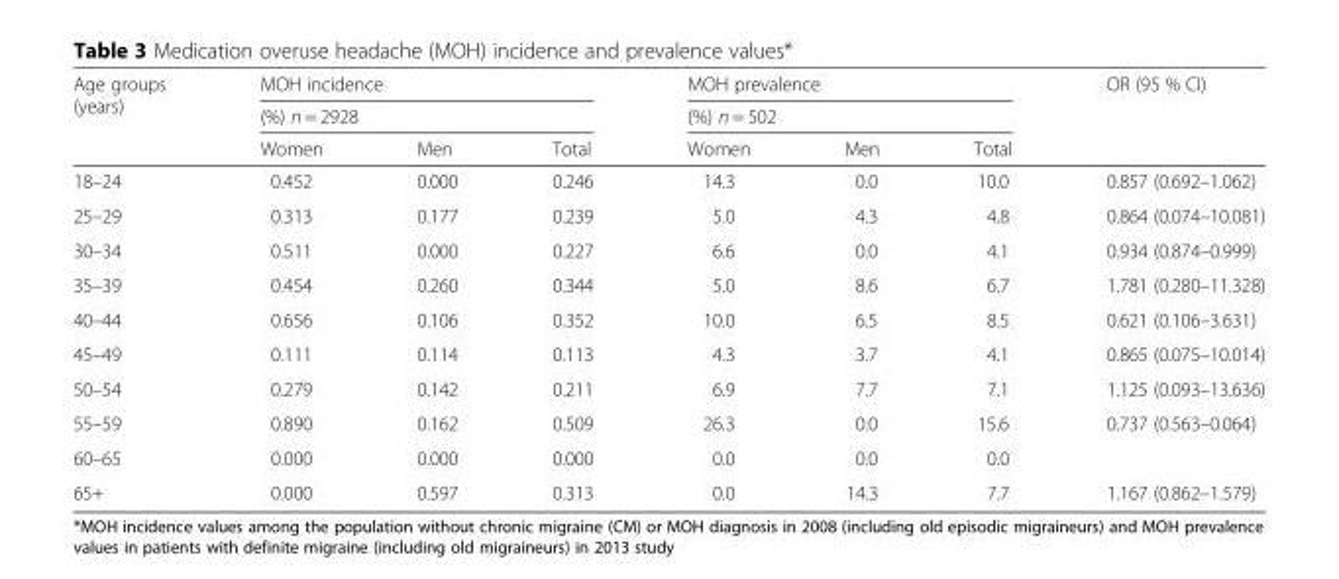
<table><thead><tr><td rowspan="3">Age groups (years)</td><td rowspan="2" colspan="3">MOH incidence (%) n = 2928</td><td rowspan="2" colspan="3">MOH prevalence (%) n = 502</td><td rowspan="3">OR (95 % CI)</td></tr><tr></tr><tr><td>Women</td><td>Men</td><td>Total</td><td>Women</td><td>Men</td><td>Total</td></tr></thead><tbody><tr><td>18–24</td><td>0.452</td><td>0.000</td><td>0.246</td><td>14.3</td><td>0.0</td><td>10.0</td><td>0.857 (0.692–1.062)</td></tr><tr><td>25–29</td><td>0.313</td><td>0.177</td><td>0.239</td><td>5.0</td><td>4.3</td><td>4.8</td><td>0.864 (0.074–10.081)</td></tr><tr><td>30–34</td><td>0.511</td><td>0.000</td><td>0.227</td><td>6.6</td><td>0.0</td><td>4.1</td><td>0.934 (0.874–0.999)</td></tr><tr><td>35–39</td><td>0.454</td><td>0.260</td><td>0.344</td><td>5.0</td><td>8.6</td><td>6.7</td><td>1.781 (0.280–11.328)</td></tr><tr><td>40–44</td><td>0.656</td><td>0.106</td><td>0.352</td><td>10.0</td><td>6.5</td><td>8.5</td><td>0.621 (0.106–3.631)</td></tr><tr><td>45–49</td><td>0.111</td><td>0.114</td><td>0.113</td><td>4.3</td><td>3.7</td><td>4.1</td><td>0.865 (0.075–10.014)</td></tr><tr><td>50–54</td><td>0.279</td><td>0.142</td><td>0.211</td><td>6.9</td><td>7.7</td><td>7.1</td><td>1.125 (0.093–13.636)</td></tr><tr><td>55–59</td><td>0.890</td><td>0.162</td><td>0.509</td><td>26.3</td><td>0.0</td><td>15.6</td><td>0.737 (0.563–0.064)</td></tr><tr><td>60–65</td><td>0.000</td><td>0.000</td><td>0.000</td><td>0.0</td><td>0.0</td><td>0.0</td><td></td></tr><tr><td>65+</td><td>0.000</td><td>0.597</td><td>0.313</td><td>0.0</td><td>14.3</td><td>7.7</td><td>1.167 (0.862–1.579)</td></tr></tbody></table>